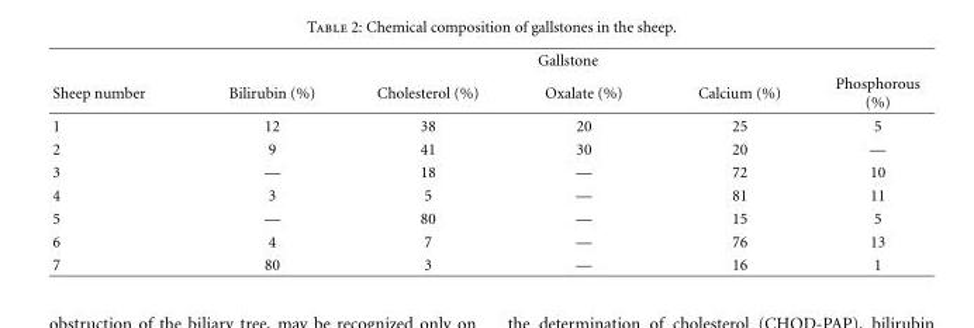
<table><thead><tr><td rowspan="2">Sheep number</td><td colspan="5">Gallstone</td></tr><tr><td>Bilirubin (%)</td><td>Cholesterol (%)</td><td>Oxalate (%)</td><td>Calcium (%)</td><td>Phosphorous (%)</td></tr></thead><tbody><tr><td>1</td><td>12</td><td>38</td><td>20</td><td>25</td><td>5</td></tr><tr><td>2</td><td>9</td><td>41</td><td>30</td><td>20</td><td>—</td></tr><tr><td>3</td><td>—</td><td>18</td><td>—</td><td>72</td><td>10</td></tr><tr><td>4</td><td>3</td><td>5</td><td>—</td><td>81</td><td>11</td></tr><tr><td>5</td><td>—</td><td>80</td><td>—</td><td>15</td><td>5</td></tr><tr><td>6</td><td>4</td><td>7</td><td>—</td><td>76</td><td>13</td></tr><tr><td>7</td><td>80</td><td>3</td><td>—</td><td>16</td><td>1</td></tr></tbody></table>